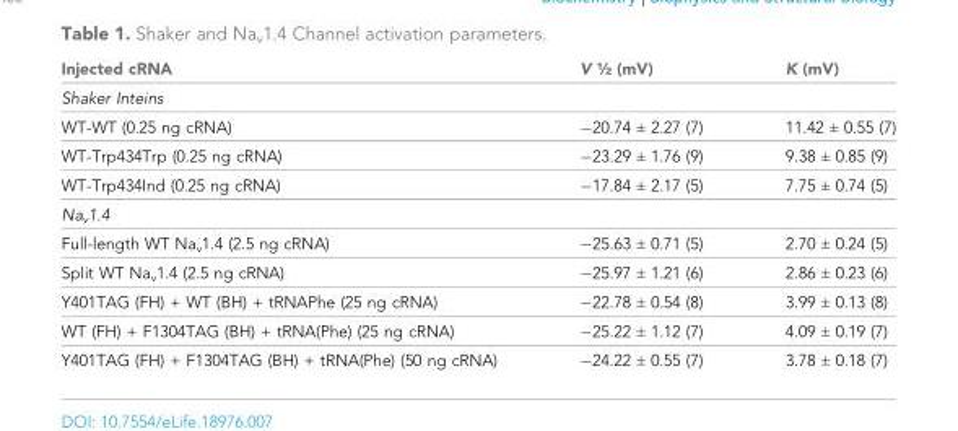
<table><thead><tr><td>Injected cRNA</td><td>V ½ (mV)</td><td>K (mV)</td></tr></thead><tbody><tr><td colspan="3">Shaker Inteins</td></tr><tr><td>WT-WT (0.25 ng cRNA)</td><td>−20.74 ± 2.27 (7)</td><td>11.42 ± 0.55 (7)</td></tr><tr><td>WT-Trp434Trp (0.25 ng cRNA)</td><td>−23.29 ± 1.76 (9)</td><td>9.38 ± 0.85 (9)</td></tr><tr><td>WT-Trp434Ind (0.25 ng cRNA)</td><td>−17.84 ± 2.17 (5)</td><td>7.75 ± 0.74 (5)</td></tr><tr><td colspan="3">Na<sub>v</sub>1.4</td></tr><tr><td>Full-length WT Na<sub>v</sub>1.4 (2.5 ng cRNA)</td><td>−25.63 ± 0.71 (5)</td><td>2.70 ± 0.24 (5)</td></tr><tr><td>Split WT Na<sub>v</sub>1.4 (2.5 ng cRNA)</td><td>−25.97 ± 1.21 (6)</td><td>2.86 ± 0.23 (6)</td></tr><tr><td>Y401TAG (FH) + WT (BH) + tRNAPhe (25 ng cRNA)</td><td>−22.78 ± 0.54 (8)</td><td>3.99 ± 0.13 (8)</td></tr><tr><td>WT (FH) + F1304TAG (BH) + tRNA(Phe) (25 ng cRNA)</td><td>−25.22 ± 1.12 (7)</td><td>4.09 ± 0.19 (7)</td></tr><tr><td>Y401TAG (FH) + F1304TAG (BH) + tRNA(Phe) (50 ng cRNA)</td><td>−24.22 ± 0.55 (7)</td><td>3.78 ± 0.18 (7)</td></tr></tbody></table>